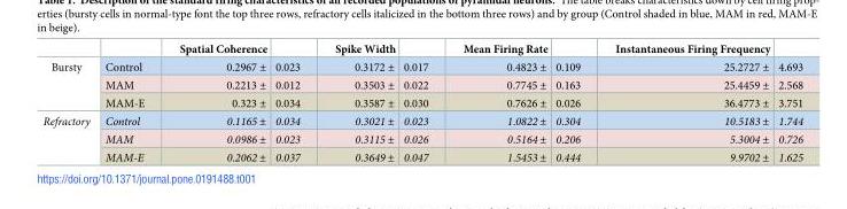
<table><thead><tr><td></td><td></td><td>Spatial Coherence</td><td></td><td>Spike Width</td><td></td><td>Mean Firing Rate</td><td></td><td>Instantaneous Firing Frequency</td><td></td></tr></thead><tbody><tr><td rowspan="3">Bursty</td><td>Control</td><td>0.2967 ±</td><td>0.023</td><td>0.3172 ±</td><td>0.017</td><td>0.4823 ±</td><td>0.109</td><td>25.2727 ±</td><td>4.693</td></tr><tr><td>MAM</td><td>0.2213 ±</td><td>0.012</td><td>0.3503 ±</td><td>0.022</td><td>0.7745 ±</td><td>0.163</td><td>25.4459 ±</td><td>2.568</td></tr><tr><td>MAM-E</td><td>0.323 ±</td><td>0.034</td><td>0.3587 ±</td><td>0.030</td><td>0.7626 ±</td><td>0.026</td><td>36.4773 ±</td><td>3.751</td></tr><tr><td rowspan="3">Refractory</td><td>Control</td><td>0.1165 ±</td><td>0.034</td><td>0.3021 ±</td><td>0.023</td><td>1.0822 ±</td><td>0.304</td><td>10.5183 ±</td><td>1.744</td></tr><tr><td>MAM</td><td>0.0986 ±</td><td>0.023</td><td>0.3115 ±</td><td>0.026</td><td>0.5164 ±</td><td>0.206</td><td>5.3004 ±</td><td>0.726</td></tr><tr><td>MAM-E</td><td>0.2062 ±</td><td>0.037</td><td>0.3649 ±</td><td>0.047</td><td>1.5453 ±</td><td>0.444</td><td>9.9702 ±</td><td>1.625</td></tr></tbody></table>